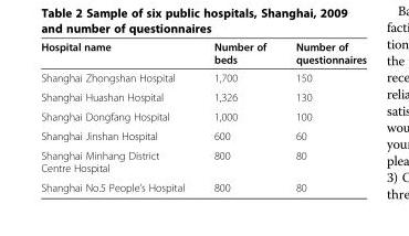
<table><thead><tr><td>Hospital name</td><td>Number of beds</td><td>Number of questionnaires</td></tr></thead><tbody><tr><td>Shanghai Zhongshan Hospital</td><td>1,700</td><td>150</td></tr><tr><td>Shanghai Huashan Hospital</td><td>1,326</td><td>130</td></tr><tr><td>Shanghai Dongfang Hospital</td><td>1,000</td><td>100</td></tr><tr><td>Shanghai Jinshan Hospital</td><td>600</td><td>60</td></tr><tr><td>Shanghai Minhang District Centre Hospital</td><td>800</td><td>80</td></tr><tr><td>Shanghai No.5 People’s Hospital</td><td>800</td><td>80</td></tr></tbody></table>